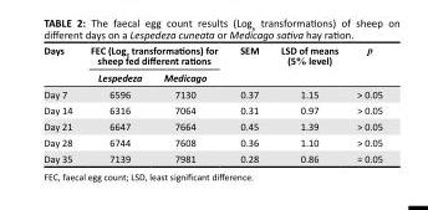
<table><thead><tr><td rowspan="2">Days</td><td colspan="2">FEC (Log<sub>e</sub> transformations) for sheep fed different rations</td><td rowspan="2">SEM</td><td rowspan="2">LSD of means (5% level)</td><td rowspan="2">p</td></tr><tr><td>Lespedeza</td><td>Medicago</td></tr></thead><tbody><tr><td>Day 7</td><td>6596</td><td>7130</td><td>0.37</td><td>1.15</td><td>&gt; 0.05</td></tr><tr><td>Day 14</td><td>6316</td><td>7064</td><td>0.31</td><td>0.97</td><td>&gt; 0.05</td></tr><tr><td>Day 21</td><td>6647</td><td>7664</td><td>0.45</td><td>1.39</td><td>&gt; 0.05</td></tr><tr><td>Day 28</td><td>6744</td><td>7608</td><td>0.36</td><td>1.10</td><td>&gt; 0.05</td></tr><tr><td>Day 35</td><td>7139</td><td>7981</td><td>0.28</td><td>0.86</td><td>= 0.05</td></tr></tbody></table>